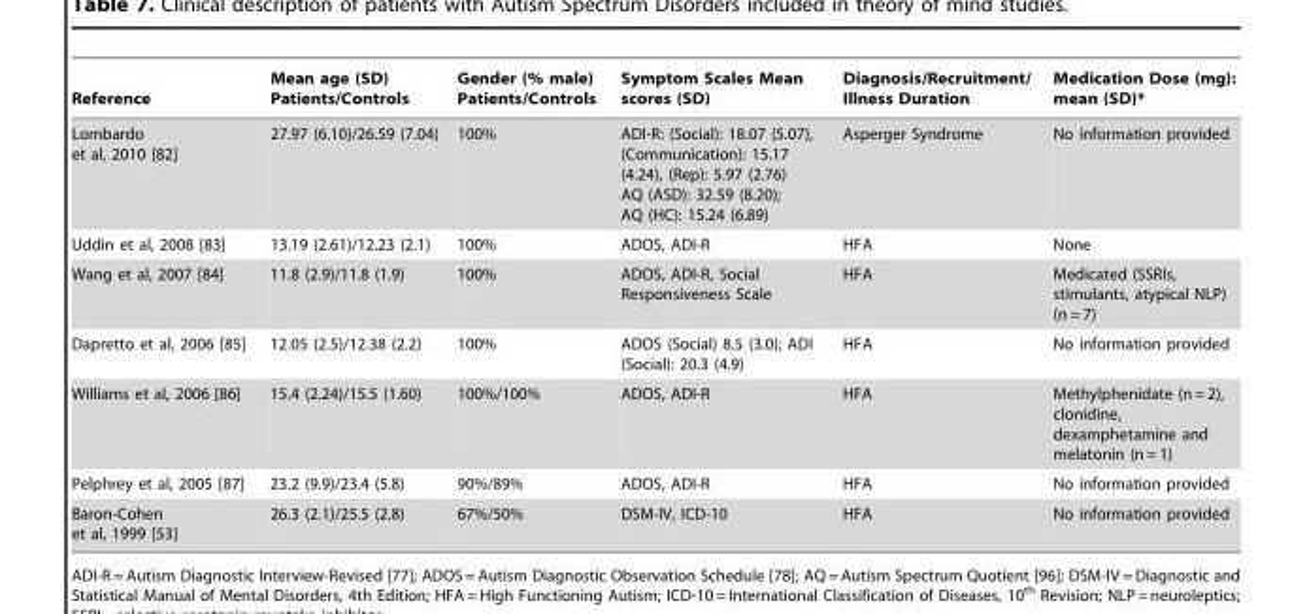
<table><thead><tr><td>Reference</td><td>Mean age (SD) Patients/Controls</td><td>Gender (% male) Patients/Controls</td><td>Symptom Scales Mean scores (SD)</td><td>Diagnosis/Recruitment/ Illness Duration</td><td>Medication Dose (mg): mean (SD)*</td></tr></thead><tbody><tr><td>Lombardo et al, 2010 [82]</td><td>27.97 (6.10)/26.59 (7.04)</td><td>100%</td><td>ADI-R: (Social): 18.07 (5.07), (Communication): 15.17 (4.24), (Rep): 5.97 (2.76) AQ (ASD): 32.59 (8.20); AQ (HC): 15.24 (6.89)</td><td>Asperger Syndrome</td><td>No information provided</td></tr><tr><td>Uddin et al, 2008 [83]</td><td>13.19 (2.61)/12.23 (2.1)</td><td>100%</td><td>ADOS, ADI-R</td><td>HFA</td><td>None</td></tr><tr><td>Wang et al, 2007 [84]</td><td>11.8 (2.9)/11.8 (1.9)</td><td>100%</td><td>ADOS, ADI-R, Social Responsiveness Scale</td><td>HFA</td><td>Medicated (SSRIs, stimulants, atypical NLP) (n = 7)</td></tr><tr><td>Dapretto et al, 2006 [85]</td><td>12.05 (2.5)/12.38 (2.2)</td><td>100%</td><td>ADOS (Social) 8.5 (3.0); ADI (Social): 20.3 (4.9)</td><td>HFA</td><td>No information provided</td></tr><tr><td>Williams et al, 2006 [86]</td><td>15.4 (2.24)/15.5 (1.60)</td><td>100%/100%</td><td>ADOS, ADI-R</td><td>HFA</td><td>Methylphenidate (n = 2), clonidine, dexamphetamine and melatonin (n = 1)</td></tr><tr><td>Pelphrey et al, 2005 [87]</td><td>23.2 (9.9)/23.4 (5.8)</td><td>90%/89%</td><td>ADOS, ADI-R</td><td>HFA</td><td>No information provided</td></tr><tr><td>Baron-Cohen et al, 1999 [53]</td><td>26.3 (2.1)/25.5 (2.8)</td><td>67%/50%</td><td>DSM-IV, ICD-10</td><td>HFA</td><td>No information provided</td></tr></tbody></table>